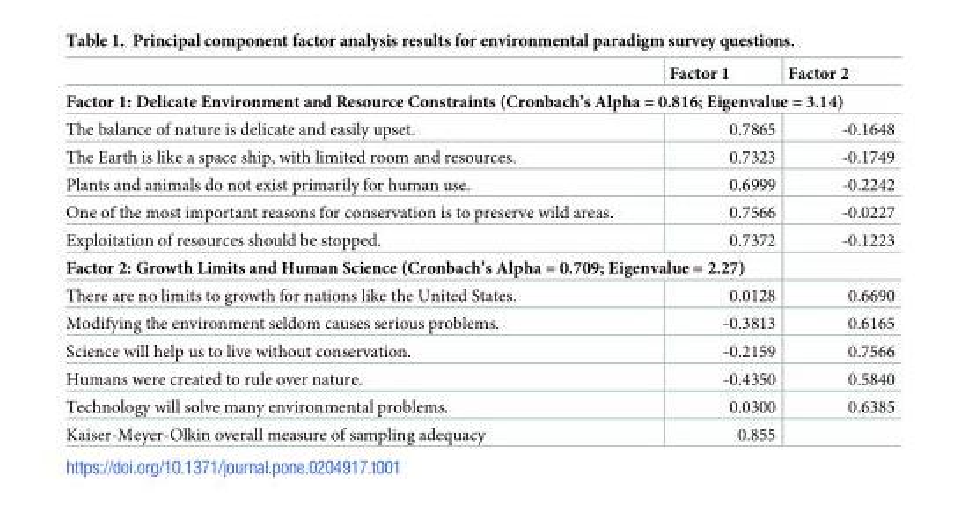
<table><thead><tr><td></td><td>Factor 1</td><td>Factor 2</td></tr></thead><tbody><tr><td colspan="3">Factor 1: Delicate Environment and Resource Constraints (Cronbach’s Alpha = 0.816; Eigenvalue = 3.14)</td></tr><tr><td>The balance of nature is delicate and easily upset.</td><td>0.7865</td><td>-0.1648</td></tr><tr><td>The Earth is like a space ship, with limited room and resources.</td><td>0.7323</td><td>-0.1749</td></tr><tr><td>Plants and animals do not exist primarily for human use.</td><td>0.6999</td><td>-0.2242</td></tr><tr><td>One of the most important reasons for conservation is to preserve wild areas.</td><td>0.7566</td><td>-0.0227</td></tr><tr><td>Exploitation of resources should be stopped.</td><td>0.7372</td><td>-0.1223</td></tr><tr><td colspan="3">Factor 2: Growth Limits and Human Science (Cronbach’s Alpha = 0.709; Eigenvalue = 2.27)</td></tr><tr><td>There are no limits to growth for nations like the United States.</td><td>0.0128</td><td>0.6690</td></tr><tr><td>Modifying the environment seldom causes serious problems.</td><td>-0.3813</td><td>0.6165</td></tr><tr><td>Science will help us to live without conservation.</td><td>-0.2159</td><td>0.7566</td></tr><tr><td>Humans were created to rule over nature.</td><td>-0.4350</td><td>0.5840</td></tr><tr><td>Technology will solve many environmental problems.</td><td>0.0300</td><td>0.6385</td></tr><tr><td>Kaiser-Meyer-Olkin overall measure of sampling adequacy</td><td>0.855</td><td></td></tr></tbody></table>